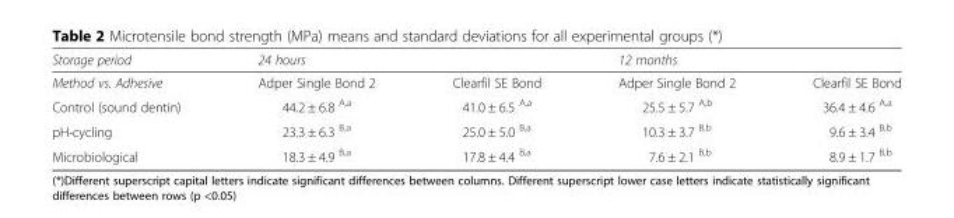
<table><thead><tr><td rowspan="2">Storage period Method vs. Adhesive</td><td colspan="2">24 hours</td><td colspan="2">12 months</td></tr><tr><td>Adper Single Bond 2</td><td>Clearfil SE Bond</td><td>Adper Single Bond 2</td><td>Clearfil SE Bond</td></tr></thead><tbody><tr><td>Control (sound dentin)</td><td>44.2 ± 6.8 <sup>A,a</sup></td><td>41.0 ± 6.5 <sup>A,a</sup></td><td>25.5 ± 5.7 <sup>A,b</sup></td><td>36.4 ± 4.6 <sup>A,a</sup></td></tr><tr><td>pH-cycling</td><td>23.3 ± 6.3 <sup>B,a</sup></td><td>25.0 ± 5.0 <sup>B,a</sup></td><td>10.3 ± 3.7 <sup>B,b</sup></td><td>9.6 ± 3.4 <sup>B,b</sup></td></tr><tr><td>Microbiological</td><td>18.3 ± 4.9 <sup>B,a</sup></td><td>17.8 ± 4.4 <sup>B,a</sup></td><td>7.6 ± 2.1 <sup>B,b</sup></td><td>8.9 ± 1.7 <sup>B,b</sup></td></tr></tbody></table>